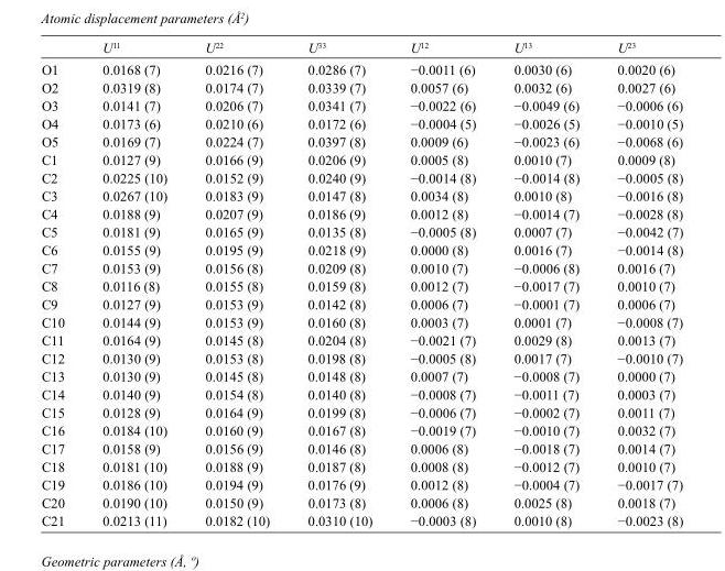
<table><thead><tr><td></td><td>U<sup>11</sup></td><td>U<sup>22</sup></td><td>U<sup>33</sup></td><td>U<sup>12</sup></td><td>U<sup>13</sup></td><td>U<sup>23</sup></td></tr></thead><tbody><tr><td>O1</td><td>0.0168 (7)</td><td>0.0216 (7)</td><td>0.0286 (7)</td><td>−0.0011 (6)</td><td>0.0030 (6)</td><td>0.0020 (6)</td></tr><tr><td>O2</td><td>0.0319 (8)</td><td>0.0174 (7)</td><td>0.0339 (7)</td><td>0.0057 (6)</td><td>0.0032 (6)</td><td>0.0027 (6)</td></tr><tr><td>O3</td><td>0.0141 (7)</td><td>0.0206 (7)</td><td>0.0341 (7)</td><td>−0.0022 (6)</td><td>−0.0049 (6)</td><td>−0.0006 (6)</td></tr><tr><td>O4</td><td>0.0173 (6)</td><td>0.0210 (6)</td><td>0.0172 (6)</td><td>−0.0004 (5)</td><td>−0.0026 (5)</td><td>−0.0010 (5)</td></tr><tr><td>O5</td><td>0.0169 (7)</td><td>0.0224 (7)</td><td>0.0397 (8)</td><td>0.0009 (6)</td><td>−0.0023 (6)</td><td>−0.0068 (6)</td></tr><tr><td>C1</td><td>0.0127 (9)</td><td>0.0166 (9)</td><td>0.0206 (9)</td><td>0.0005 (8)</td><td>0.0010 (7)</td><td>0.0009 (8)</td></tr><tr><td>C2</td><td>0.0225 (10)</td><td>0.0152 (9)</td><td>0.0240 (9)</td><td>−0.0014 (8)</td><td>−0.0014 (8)</td><td>−0.0005 (8)</td></tr><tr><td>C3</td><td>0.0267 (10)</td><td>0.0183 (9)</td><td>0.0147 (8)</td><td>0.0034 (8)</td><td>0.0010 (8)</td><td>−0.0016 (8)</td></tr><tr><td>C4</td><td>0.0188 (9)</td><td>0.0207 (9)</td><td>0.0186 (9)</td><td>0.0012 (8)</td><td>−0.0014 (7)</td><td>−0.0028 (8)</td></tr><tr><td>C5</td><td>0.0181 (9)</td><td>0.0165 (9)</td><td>0.0135 (8)</td><td>−0.0005 (8)</td><td>0.0007 (7)</td><td>−0.0042 (7)</td></tr><tr><td>C6</td><td>0.0155 (9)</td><td>0.0195 (9)</td><td>0.0218 (9)</td><td>0.0000 (8)</td><td>0.0016 (7)</td><td>−0.0014 (8)</td></tr><tr><td>C7</td><td>0.0153 (9)</td><td>0.0156 (8)</td><td>0.0209 (8)</td><td>0.0010 (7)</td><td>−0.0006 (8)</td><td>0.0016 (7)</td></tr><tr><td>C8</td><td>0.0116 (8)</td><td>0.0155 (8)</td><td>0.0159 (8)</td><td>0.0012 (7)</td><td>−0.0017 (7)</td><td>0.0010 (7)</td></tr><tr><td>C9</td><td>0.0127 (9)</td><td>0.0153 (9)</td><td>0.0142 (8)</td><td>0.0006 (7)</td><td>−0.0001 (7)</td><td>0.0006 (7)</td></tr><tr><td>C10</td><td>0.0144 (9)</td><td>0.0153 (9)</td><td>0.0160 (8)</td><td>0.0003 (7)</td><td>0.0001 (7)</td><td>−0.0008 (7)</td></tr><tr><td>C11</td><td>0.0164 (9)</td><td>0.0145 (8)</td><td>0.0204 (8)</td><td>−0.0021 (7)</td><td>0.0029 (8)</td><td>0.0013 (7)</td></tr><tr><td>C12</td><td>0.0130 (9)</td><td>0.0153 (8)</td><td>0.0198 (8)</td><td>−0.0005 (8)</td><td>0.0017 (7)</td><td>−0.0010 (7)</td></tr><tr><td>C13</td><td>0.0130 (9)</td><td>0.0145 (8)</td><td>0.0148 (8)</td><td>0.0007 (7)</td><td>−0.0008 (7)</td><td>0.0000 (7)</td></tr><tr><td>C14</td><td>0.0140 (9)</td><td>0.0154 (8)</td><td>0.0140 (8)</td><td>−0.0008 (7)</td><td>−0.0011 (7)</td><td>0.0003 (7)</td></tr><tr><td>C15</td><td>0.0128 (9)</td><td>0.0164 (9)</td><td>0.0199 (8)</td><td>−0.0006 (7)</td><td>−0.0002 (7)</td><td>0.0011 (7)</td></tr><tr><td>C16</td><td>0.0184 (10)</td><td>0.0160 (9)</td><td>0.0167 (8)</td><td>−0.0019 (7)</td><td>−0.0010 (7)</td><td>0.0032 (7)</td></tr><tr><td>C17</td><td>0.0158 (9)</td><td>0.0156 (9)</td><td>0.0146 (8)</td><td>0.0006 (8)</td><td>−0.0018 (7)</td><td>0.0014 (7)</td></tr><tr><td>C18</td><td>0.0181 (10)</td><td>0.0188 (9)</td><td>0.0187 (8)</td><td>0.0008 (8)</td><td>−0.0012 (7)</td><td>0.0010 (7)</td></tr><tr><td>C19</td><td>0.0186 (10)</td><td>0.0194 (9)</td><td>0.0176 (9)</td><td>0.0012 (8)</td><td>−0.0004 (7)</td><td>−0.0017 (7)</td></tr><tr><td>C20</td><td>0.0190 (10)</td><td>0.0150 (9)</td><td>0.0173 (8)</td><td>0.0006 (8)</td><td>0.0025 (8)</td><td>0.0018 (7)</td></tr><tr><td>C21</td><td>0.0213 (11)</td><td>0.0182 (10)</td><td>0.0310 (10)</td><td>−0.0003 (8)</td><td>0.0010 (8)</td><td>−0.0023 (8)</td></tr></tbody></table>